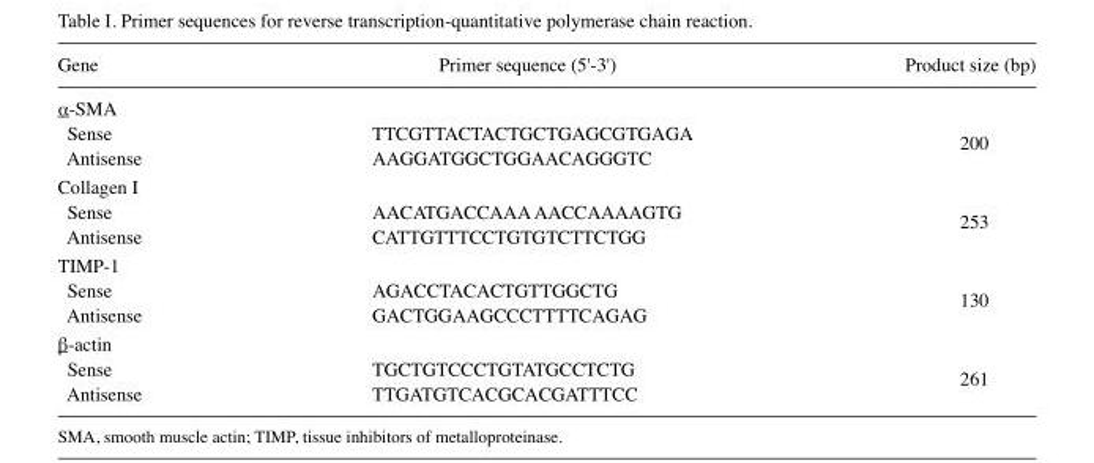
<table><thead><tr><td>Gene</td><td>Primer sequence (5&#x27;-3&#x27;)</td><td>Product size (bp)</td></tr></thead><tbody><tr><td colspan="3">α-SMA</td></tr><tr><td>Sense</td><td>TTCGTTACTACTGCTGAGCGTGAGA</td><td rowspan="2">200</td></tr><tr><td>Antisense</td><td>AAGGATGGCTGGAACAGGGTC</td></tr><tr><td colspan="3">Collagen Ⅰ</td></tr><tr><td>Sense</td><td>AACATGACCAAA AACCAAAAGTG</td><td rowspan="2">253</td></tr><tr><td>Antisense</td><td>CATTGTTTCCTGTGTCTTCTGG</td></tr><tr><td colspan="3">TIMP-1</td></tr><tr><td>Sense</td><td>AGACCTACACTGTTGGCTG</td><td rowspan="2">130</td></tr><tr><td>Antisense</td><td>GACTGGAAGCCCTTTTCAGAG</td></tr><tr><td colspan="3">β-actin</td></tr><tr><td>Sense</td><td>TGCTGTCCCTGTATGCCTCTG</td><td rowspan="2">261</td></tr><tr><td>Antisense</td><td>TTGATGTCACGCACGATTTCC</td></tr></tbody></table>